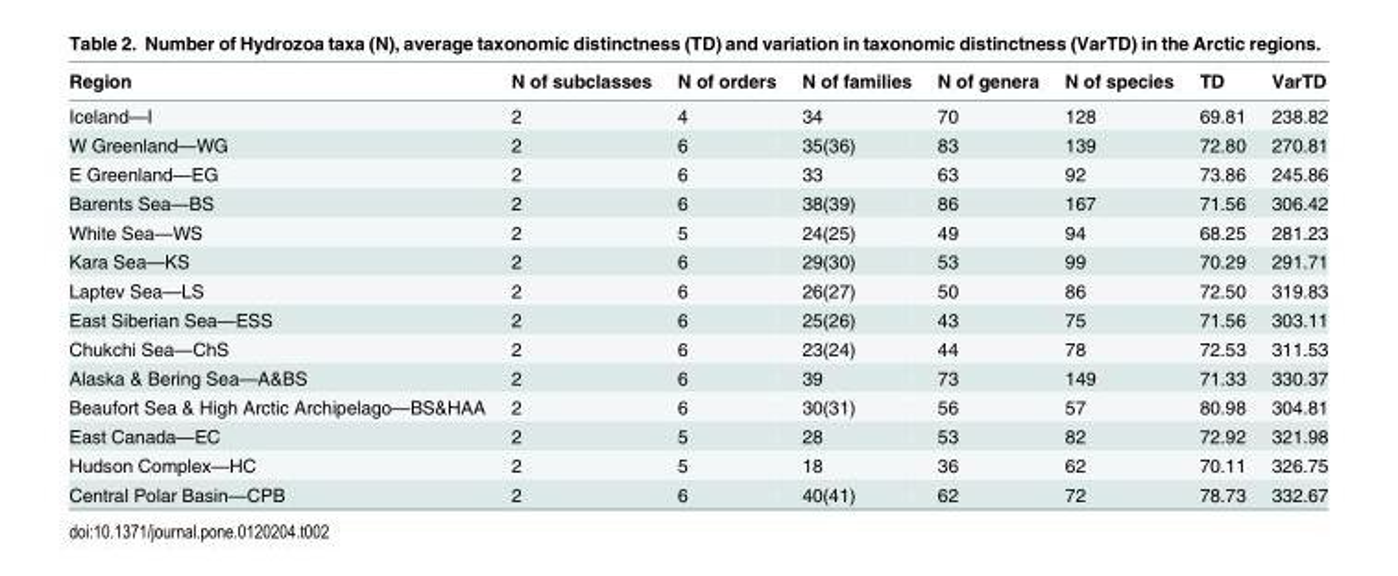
<table><thead><tr><td>Region</td><td>N of subclasses</td><td>N of orders</td><td>N of families</td><td>N of genera</td><td>N of species</td><td>TD</td><td>VarTD</td></tr></thead><tbody><tr><td>Iceland—I</td><td>2</td><td>4</td><td>34</td><td>70</td><td>128</td><td>69.81</td><td>238.82</td></tr><tr><td>W Greenland—WG</td><td>2</td><td>6</td><td>35(36)</td><td>83</td><td>139</td><td>72.80</td><td>270.81</td></tr><tr><td>E Greenland—EG</td><td>2</td><td>6</td><td>33</td><td>63</td><td>92</td><td>73.86</td><td>245.86</td></tr><tr><td>Barents Sea—BS</td><td>2</td><td>6</td><td>38(39)</td><td>86</td><td>167</td><td>71.56</td><td>306.42</td></tr><tr><td>White Sea—WS</td><td>2</td><td>5</td><td>24(25)</td><td>49</td><td>94</td><td>68.25</td><td>281.23</td></tr><tr><td>Kara Sea—KS</td><td>2</td><td>6</td><td>29(30)</td><td>53</td><td>99</td><td>70.29</td><td>291.71</td></tr><tr><td>Laptev Sea—LS</td><td>2</td><td>6</td><td>26(27)</td><td>50</td><td>86</td><td>72.50</td><td>319.83</td></tr><tr><td>East Siberian Sea—ESS</td><td>2</td><td>6</td><td>25(26)</td><td>43</td><td>75</td><td>71.56</td><td>303.11</td></tr><tr><td>Chukchi Sea—ChS</td><td>2</td><td>6</td><td>23(24)</td><td>44</td><td>78</td><td>72.53</td><td>311.53</td></tr><tr><td>Alaska &amp; Bering Sea—A&amp;BS</td><td>2</td><td>6</td><td>39</td><td>73</td><td>149</td><td>71.33</td><td>330.37</td></tr><tr><td>Beaufort Sea &amp; High Arctic Archipelago—BS&amp;HAA</td><td>2</td><td>6</td><td>30(31)</td><td>56</td><td>57</td><td>80.98</td><td>304.81</td></tr><tr><td>East Canada—EC</td><td>2</td><td>5</td><td>28</td><td>53</td><td>82</td><td>72.92</td><td>321.98</td></tr><tr><td>Hudson Complex—HC</td><td>2</td><td>5</td><td>18</td><td>36</td><td>62</td><td>70.11</td><td>326.75</td></tr><tr><td>Central Polar Basin—CPB</td><td>2</td><td>6</td><td>40(41)</td><td>62</td><td>72</td><td>78.73</td><td>332.67</td></tr></tbody></table>